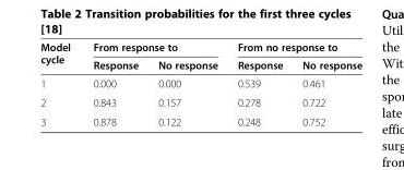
<table><thead><tr><td rowspan="2">Model cycle</td><td colspan="2">From response to</td><td colspan="2">From no response to</td></tr><tr><td>Response</td><td>No response</td><td>Response</td><td>No response</td></tr></thead><tbody><tr><td>1</td><td>0.000</td><td>0.000</td><td>0.539</td><td>0.461</td></tr><tr><td>2</td><td>0.843</td><td>0.157</td><td>0.278</td><td>0.722</td></tr><tr><td>3</td><td>0.878</td><td>0.122</td><td>0.248</td><td>0.752</td></tr></tbody></table>